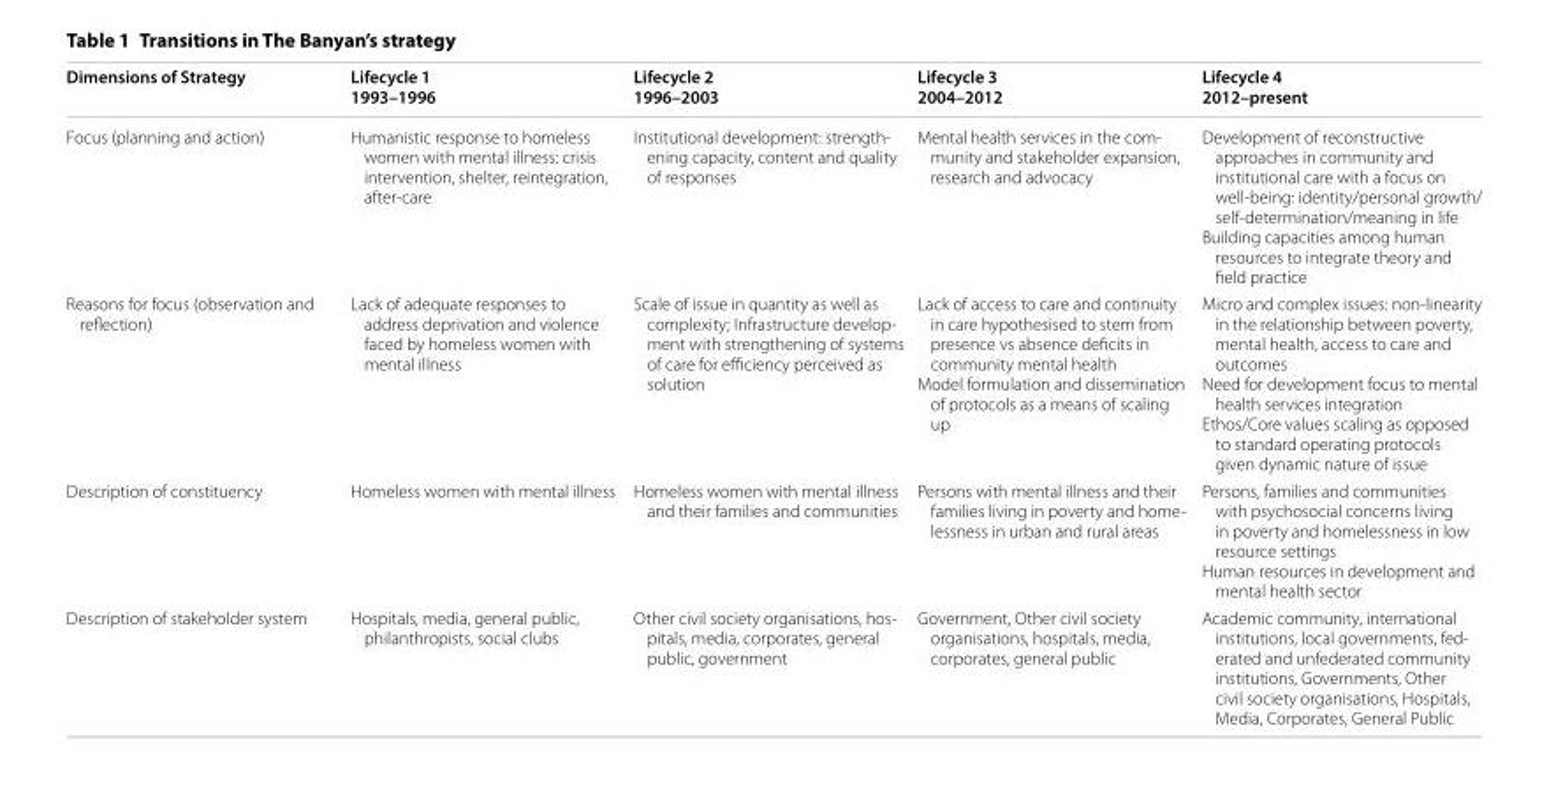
<table><thead><tr><td>Dimensions of Strategy</td><td>Lifecycle 1 1993–1996</td><td>Lifecycle 2 1996–2003</td><td>Lifecycle 3 2004–2012</td><td>Lifecycle 4 2012–present</td></tr></thead><tbody><tr><td>Focus (planning and action)</td><td>Humanistic response to homeless women with mental illness: crisis intervention, shelter, reintegration, after-care</td><td>Institutional development: strength- ening capacity, content and quality of responses</td><td>Mental health services in the com- munity and stakeholder expansion, research and advocacy</td><td>Development of reconstructive approaches in community and institutional care with a focus on well-being: identity/personal growth/ self-determination/meaning in life Building capacities among human resources to integrate theory and field practice</td></tr><tr><td>Reasons for focus (observation and reflection)</td><td>Lack of adequate responses to address deprivation and violence faced by homeless women with mental illness</td><td>Scale of issue in quantity as well as complexity; Infrastructure develop- ment with strengthening of systems of care for efficiency perceived as solution</td><td>Lack of access to care and continuity in care hypothesised to stem from presence vs absence deficits in community mental health Model formulation and dissemination of protocols as a means of scaling up</td><td>Micro and complex issues: non-linearity in the relationship between poverty, mental health, access to care and outcomes Need for development focus to mental health services integration Ethos/Core values scaling as opposed to standard operating protocols given dynamic nature of issue</td></tr><tr><td>Description of constituency</td><td>Homeless women with mental illness</td><td>Homeless women with mental illness and their families and communities</td><td>Persons with mental illness and their families living in poverty and home- lessness in urban and rural areas</td><td>Persons, families and communities with psychosocial concerns living in poverty and homelessness in low resource settings Human resources in development and mental health sector</td></tr><tr><td>Description of stakeholder system</td><td>Hospitals, media, general public, philanthropists, social clubs</td><td>Other civil society organisations, hos- pitals, media, corporates, general public, government</td><td>Government, Other civil society organisations, hospitals, media, corporates, general public</td><td>Academic community, international institutions, local governments, fed- erated and unfederated community institutions, Governments, Other civil society organisations, Hospitals, Media, Corporates, General Public</td></tr></tbody></table>